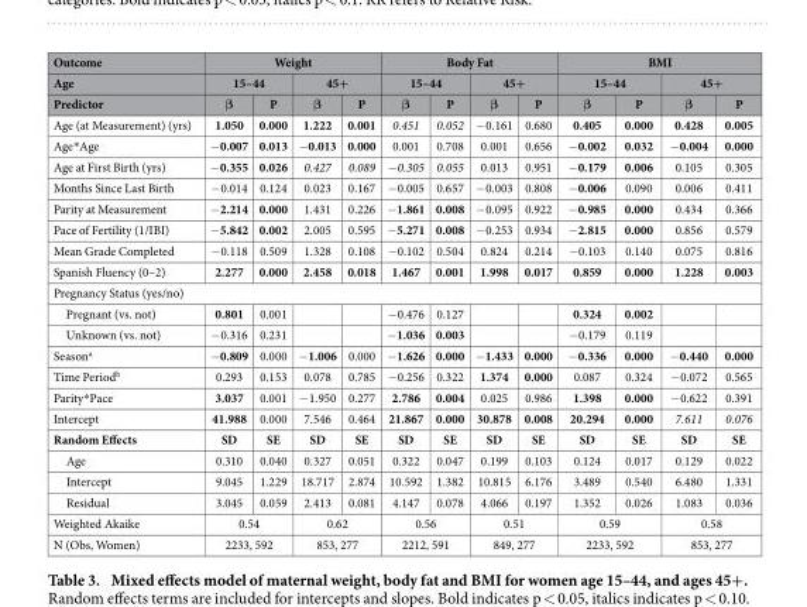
<table><thead><tr><td rowspan="3">Outcome Age Predictor</td><td colspan="4">Weight</td><td colspan="4">Body Fat</td><td colspan="4">BMI</td></tr><tr><td colspan="2">15–44</td><td colspan="2">45+</td><td colspan="2">15–44</td><td colspan="2">45+</td><td colspan="2">15–44</td><td colspan="2">45+</td></tr><tr><td>β</td><td>P</td><td>β</td><td>P</td><td>β</td><td>P</td><td>β</td><td>P</td><td>β</td><td>P</td><td>β</td><td>P</td></tr></thead><tbody><tr><td>Age (at Measurement) (yrs)</td><td>1.050</td><td>0.000</td><td>1.222</td><td>0.001</td><td>0.451</td><td>0.052</td><td>− 0.161</td><td>0.680</td><td>0.405</td><td>0.000</td><td>0.428</td><td>0.005</td></tr><tr><td>Age* Age</td><td>− 0.007</td><td>0.013</td><td>− 0.013</td><td>0.000</td><td>0.001</td><td>0.708</td><td>0.001</td><td>0.656</td><td>− 0.002</td><td>0.032</td><td>− 0.004</td><td>0.000</td></tr><tr><td>Age at First Birth (yrs)</td><td>− 0.355</td><td>0.026</td><td>0.427</td><td>0.089</td><td>− 0.305</td><td>0.055</td><td>0.013</td><td>0.951</td><td>− 0.179</td><td>0.006</td><td>0.105</td><td>0.305</td></tr><tr><td>Months Since Last Birth</td><td>− 0.014</td><td>0.124</td><td>0.023</td><td>0.167</td><td>− 0.005</td><td>0.657</td><td>− 0.003</td><td>0.808</td><td>− 0.006</td><td>0.090</td><td>0.006</td><td>0.411</td></tr><tr><td>Parity at Measurement</td><td>− 2.214</td><td>0.000</td><td>1.431</td><td>0.226</td><td>− 1.861</td><td>0.008</td><td>− 0.095</td><td>0.922</td><td>− 0.985</td><td>0.000</td><td>0.434</td><td>0.366</td></tr><tr><td>Pace of Fertility (1/IBI)</td><td>− 5.842</td><td>0.002</td><td>2.005</td><td>0.595</td><td>− 5.271</td><td>0.008</td><td>− 0.253</td><td>0.934</td><td>− 2.815</td><td>0.000</td><td>0.856</td><td>0.579</td></tr><tr><td>Mean Grade Completed</td><td>− 0.118</td><td>0.509</td><td>1.328</td><td>0.108</td><td>− 0.102</td><td>0.504</td><td>0.824</td><td>0.214</td><td>− 0.103</td><td>0.140</td><td>0.075</td><td>0.816</td></tr><tr><td>Spanish Fluency (0–2)</td><td>2.277</td><td>0.000</td><td>2.458</td><td>0.018</td><td>1.467</td><td>0.001</td><td>1.998</td><td>0.017</td><td>0.859</td><td>0.000</td><td>1.228</td><td>0.003</td></tr><tr><td colspan="13">Pregnancy Status (yes/no)</td></tr><tr><td>Pregnant (vs. not)</td><td>0.801</td><td>0.001</td><td></td><td></td><td>− 0.476</td><td>0.127</td><td></td><td></td><td>0.324</td><td>0.002</td><td></td><td></td></tr><tr><td>Unknown (vs. not)</td><td>− 0.316</td><td>0.231</td><td></td><td></td><td>− 1.036</td><td>0.003</td><td></td><td></td><td>− 0.179</td><td>0.119</td><td></td><td></td></tr><tr><td>Season<sup>a</sup></td><td>− 0.809</td><td>0.000</td><td>− 1.006</td><td>0.000</td><td>− 1.626</td><td>0.000</td><td>− 1.433</td><td>0.000</td><td>− 0.336</td><td>0.000</td><td>− 0.440</td><td>0.000</td></tr><tr><td>Time Period<sup>b</sup></td><td>0.293</td><td>0.153</td><td>0.078</td><td>0.785</td><td>− 0.256</td><td>0.322</td><td>1.374</td><td>0.000</td><td>0.087</td><td>0.324</td><td>− 0.072</td><td>0.565</td></tr><tr><td>Parity* Pace</td><td>3.037</td><td>0.001</td><td>− 1.950</td><td>0.277</td><td>2.786</td><td>0.004</td><td>0.025</td><td>0.986</td><td>1.398</td><td>0.000</td><td>− 0.622</td><td>0.391</td></tr><tr><td>Intercept</td><td>41.988</td><td>0.000</td><td>7.546</td><td>0.464</td><td>21.867</td><td>0.000</td><td>30.878</td><td>0.008</td><td>20.294</td><td>0.000</td><td>7.611</td><td>0.076</td></tr><tr><td>Random Effects</td><td>SD</td><td>SE</td><td>SD</td><td>SE</td><td>SD</td><td>SE</td><td>SD</td><td>SE</td><td>SD</td><td>SE</td><td>SD</td><td>SE</td></tr><tr><td>Age</td><td>0.310</td><td>0.040</td><td>0.327</td><td>0.051</td><td>0.322</td><td>0.047</td><td>0.199</td><td>0.103</td><td>0.124</td><td>0.017</td><td>0.129</td><td>0.022</td></tr><tr><td>Intercept</td><td>9.045</td><td>1.229</td><td>18.717</td><td>2.874</td><td>10.592</td><td>1.382</td><td>10.815</td><td>6.176</td><td>3.489</td><td>0.540</td><td>6.480</td><td>1.331</td></tr><tr><td>Residual</td><td>3.045</td><td>0.059</td><td>2.413</td><td>0.081</td><td>4.147</td><td>0.078</td><td>4.066</td><td>0.197</td><td>1.352</td><td>0.026</td><td>1.083</td><td>0.036</td></tr><tr><td>Weighted Akaike</td><td colspan="2">0.54</td><td colspan="2">0.62</td><td colspan="2">0.56</td><td colspan="2">0.51</td><td colspan="2">0.59</td><td colspan="2">0.58</td></tr><tr><td>N (Obs, Women)</td><td colspan="2">2233, 592</td><td colspan="2">853, 277</td><td colspan="2">2212, 591</td><td colspan="2">849, 277</td><td colspan="2">2233, 592</td><td colspan="2">853, 277</td></tr></tbody></table>